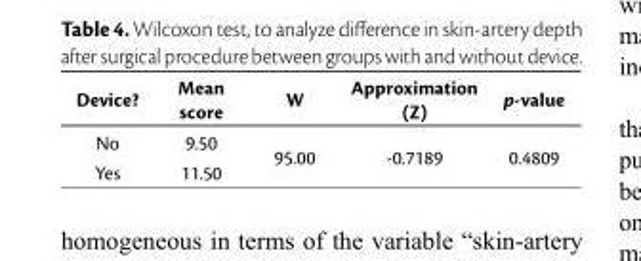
<table><thead><tr><td>Device?</td><td>Mean score</td><td>W</td><td>Approximation (Z)</td><td>p-value</td></tr></thead><tbody><tr><td>No</td><td>9.50</td><td rowspan="2">95.00</td><td rowspan="2">-0.7189</td><td rowspan="2">0.4809</td></tr><tr><td>Yes</td><td>11.50</td></tr></tbody></table>